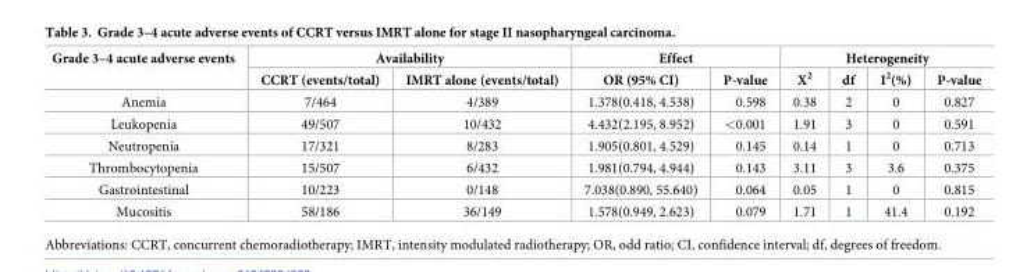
<table><thead><tr><td rowspan="2">Grade 3–4 acute adverse events</td><td colspan="2">Availability</td><td colspan="2">Effect</td><td colspan="4">Heterogeneity</td></tr><tr><td>CCRT (events/total)</td><td>IMRT alone (events/total)</td><td>OR (95% CI)</td><td>P-value</td><td>X<sup>2</sup></td><td>df</td><td>I<sup>2</sup>(%)</td><td>P-value</td></tr></thead><tbody><tr><td>Anemia</td><td>7/464</td><td>4/389</td><td>1.378(0.418, 4.538)</td><td>0.598</td><td>0.38</td><td>2</td><td>0</td><td>0.827</td></tr><tr><td>Leukopenia</td><td>49/507</td><td>10/432</td><td>4.432(2.195, 8.952)</td><td>&lt;0.001</td><td>1.91</td><td>3</td><td>0</td><td>0.591</td></tr><tr><td>Neutropenia</td><td>17/321</td><td>8/283</td><td>1.905(0.801, 4.529)</td><td>0.145</td><td>0.14</td><td>1</td><td>0</td><td>0.713</td></tr><tr><td>Thrombocytopenia</td><td>15/507</td><td>6/432</td><td>1.981(0.794, 4.944)</td><td>0.143</td><td>3.11</td><td>3</td><td>3.6</td><td>0.375</td></tr><tr><td>Gastrointestinal</td><td>10/223</td><td>0/148</td><td>7.038(0.890, 55.640)</td><td>0.064</td><td>0.05</td><td>1</td><td>0</td><td>0.815</td></tr><tr><td>Mucositis</td><td>58/186</td><td>36/149</td><td>1.578(0.949, 2.623)</td><td>0.079</td><td>1.71</td><td>1</td><td>41.4</td><td>0.192</td></tr></tbody></table>